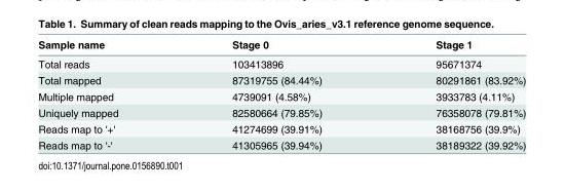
<table><thead><tr><td>Sample name</td><td>Stage 0</td><td>Stage 1</td></tr></thead><tbody><tr><td>Total reads</td><td>103413896</td><td>95671374</td></tr><tr><td>Total mapped</td><td>87319755 (84.44%)</td><td>80291861 (83.92%)</td></tr><tr><td>Multiple mapped</td><td>4739091 (4.58%)</td><td>3933783 (4.11%)</td></tr><tr><td>Uniquely mapped</td><td>82580664 (79.85%)</td><td>76358078 (79.81%)</td></tr><tr><td>Reads map to &#x27;+&#x27;</td><td>41274699 (39.91%)</td><td>38168756 (39.9%)</td></tr><tr><td>Reads map to &#x27;-&#x27;</td><td>41305965 (39.94%)</td><td>38189322 (39.92%)</td></tr></tbody></table>